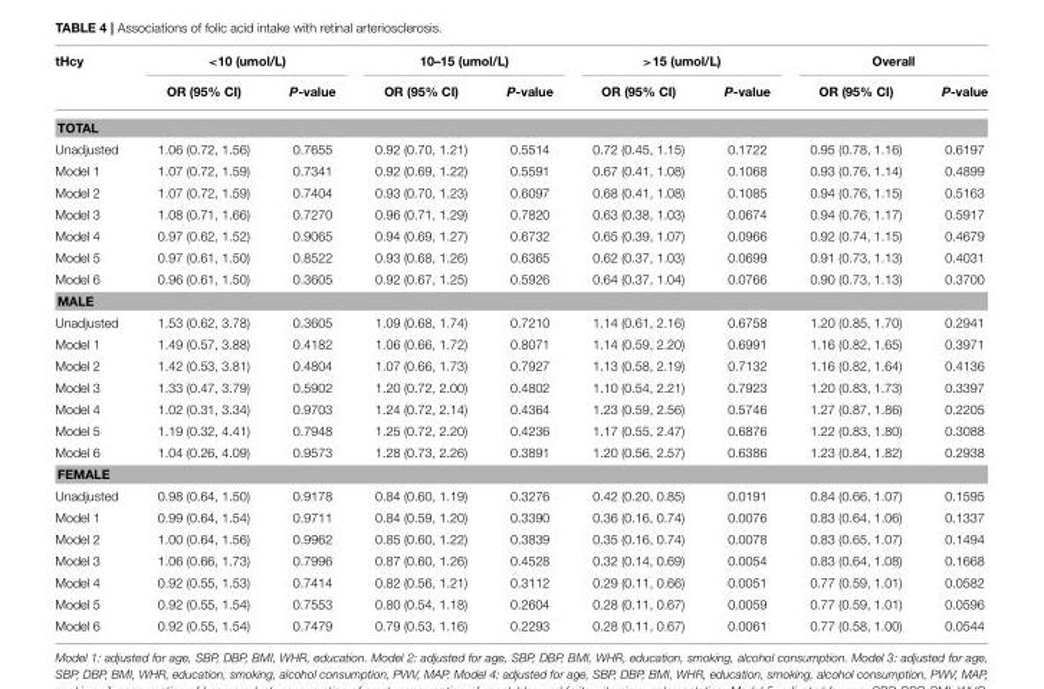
<table><thead><tr><td rowspan="2">tHcy</td><td colspan="2">&lt;10 (umol/L)</td><td colspan="2">10–15 (umol/L)</td><td colspan="2">&gt;15 (umol/L)</td><td colspan="2">Overall</td></tr><tr><td>OR (95% CI)</td><td>P-value</td><td>OR (95% CI)</td><td>P-value</td><td>OR (95% CI)</td><td>P-value</td><td>OR (95% CI)</td><td>P-value</td></tr></thead><tbody><tr><td colspan="9">TOTAL</td></tr><tr><td>Unadjusted</td><td>1.06 (0.72, 1.56)</td><td>0.7655</td><td>0.92 (0.70, 1.21)</td><td>0.5514</td><td>0.72 (0.45, 1.15)</td><td>0.1722</td><td>0.95 (0.78, 1.16)</td><td>0.6197</td></tr><tr><td>Model 1</td><td>1.07 (0.72, 1.59)</td><td>0.7341</td><td>0.92 (0.69, 1.22)</td><td>0.5591</td><td>0.67 (0.41, 1.08)</td><td>0.1068</td><td>0.93 (0.76, 1.14)</td><td>0.4899</td></tr><tr><td>Model 2</td><td>1.07 (0.72, 1.59)</td><td>0.7404</td><td>0.93 (0.70, 1.23)</td><td>0.6097</td><td>0.68 (0.41, 1.08)</td><td>0.1085</td><td>0.94 (0.76, 1.15)</td><td>0.5163</td></tr><tr><td>Model 3</td><td>1.08 (0.71, 1.66)</td><td>0.7270</td><td>0.96 (0.71, 1.29)</td><td>0.7820</td><td>0.63 (0.38, 1.03)</td><td>0.0674</td><td>0.94 (0.76, 1.17)</td><td>0.5917</td></tr><tr><td>Model 4</td><td>0.97 (0.62, 1.52)</td><td>0.9065</td><td>0.94 (0.69, 1.27)</td><td>0.6732</td><td>0.65 (0.39, 1.07)</td><td>0.0966</td><td>0.92 (0.74, 1.15)</td><td>0.4679</td></tr><tr><td>Model 5</td><td>0.97 (0.61, 1.50)</td><td>0.8522</td><td>0.93 (0.68, 1.26)</td><td>0.6365</td><td>0.62 (0.37, 1.03)</td><td>0.0699</td><td>0.91 (0.73, 1.13)</td><td>0.4031</td></tr><tr><td>Model 6</td><td>0.96 (0.61, 1.50)</td><td>0.3605</td><td>0.92 (0.67, 1.25)</td><td>0.5926</td><td>0.64 (0.37, 1.04)</td><td>0.0766</td><td>0.90 (0.73, 1.13)</td><td>0.3700</td></tr><tr><td colspan="9">MALE</td></tr><tr><td>Unadjusted</td><td>1.53 (0.62, 3.78)</td><td>0.3605</td><td>1.09 (0.68, 1.74)</td><td>0.7210</td><td>1.14 (0.61, 2.16)</td><td>0.6758</td><td>1.20 (0.85, 1.70)</td><td>0.2941</td></tr><tr><td>Model 1</td><td>1.49 (0.57, 3.88)</td><td>0.4182</td><td>1.06 (0.66, 1.72)</td><td>0.8071</td><td>1.14 (0.59, 2.20)</td><td>0.6991</td><td>1.16 (0.82, 1.65)</td><td>0.3971</td></tr><tr><td>Model 2</td><td>1.42 (0.53, 3.81)</td><td>0.4804</td><td>1.07 (0.66, 1.73)</td><td>0.7927</td><td>1.13 (0.58, 2.19)</td><td>0.7132</td><td>1.16 (0.82, 1.64)</td><td>0.4136</td></tr><tr><td>Model 3</td><td>1.33 (0.47, 3.79)</td><td>0.5902</td><td>1.20 (0.72, 2.00)</td><td>0.4802</td><td>1.10 (0.54, 2.21)</td><td>0.7923</td><td>1.20 (0.83, 1.73)</td><td>0.3397</td></tr><tr><td>Model 4</td><td>1.02 (0.31, 3.34)</td><td>0.9703</td><td>1.24 (0.72, 2.14)</td><td>0.4364</td><td>1.23 (0.59, 2.56)</td><td>0.5746</td><td>1.27 (0.87, 1.86)</td><td>0.2205</td></tr><tr><td>Model 5</td><td>1.19 (0.32, 4.41)</td><td>0.7948</td><td>1.25 (0.72, 2.20)</td><td>0.4236</td><td>1.17 (0.55, 2.47)</td><td>0.6876</td><td>1.22 (0.83, 1.80)</td><td>0.3088</td></tr><tr><td>Model 6</td><td>1.04 (0.26, 4.09)</td><td>0.9573</td><td>1.28 (0.73, 2.26)</td><td>0.3891</td><td>1.20 (0.56, 2.57)</td><td>0.6386</td><td>1.23 (0.84, 1.82)</td><td>0.2938</td></tr><tr><td colspan="9">FEMALE</td></tr><tr><td>Unadjusted</td><td>0.98 (0.64, 1.50)</td><td>0.9178</td><td>0.84 (0.60, 1.19)</td><td>0.3276</td><td>0.42 (0.20, 0.85)</td><td>0.0191</td><td>0.84 (0.66, 1.07)</td><td>0.1595</td></tr><tr><td>Model 1</td><td>0.99 (0.64, 1.54)</td><td>0.9711</td><td>0.84 (0.59, 1.20)</td><td>0.3390</td><td>0.36 (0.16, 0.74)</td><td>0.0076</td><td>0.83 (0.64, 1.06)</td><td>0.1337</td></tr><tr><td>Model 2</td><td>1.00 (0.64, 1.56)</td><td>0.9962</td><td>0.85 (0.60, 1.22)</td><td>0.3839</td><td>0.35 (0.16, 0.74)</td><td>0.0078</td><td>0.83 (0.65, 1.07)</td><td>0.1494</td></tr><tr><td>Model 3</td><td>1.06 (0.66, 1.73)</td><td>0.7996</td><td>0.87 (0.60, 1.26)</td><td>0.4528</td><td>0.32 (0.14, 0.69)</td><td>0.0054</td><td>0.83 (0.64, 1.08)</td><td>0.1668</td></tr><tr><td>Model 4</td><td>0.92 (0.55, 1.53)</td><td>0.7414</td><td>0.82 (0.56, 1.21)</td><td>0.3112</td><td>0.29 (0.11, 0.66)</td><td>0.0051</td><td>0.77 (0.59, 1.01)</td><td>0.0582</td></tr><tr><td>Model 5</td><td>0.92 (0.55, 1.54)</td><td>0.7553</td><td>0.80 (0.54, 1.18)</td><td>0.2604</td><td>0.28 (0.11, 0.67)</td><td>0.0059</td><td>0.77 (0.59, 1.01)</td><td>0.0596</td></tr><tr><td>Model 6</td><td>0.92 (0.55, 1.54)</td><td>0.7479</td><td>0.79 (0.53, 1.16)</td><td>0.2293</td><td>0.28 (0.11, 0.67)</td><td>0.0061</td><td>0.77 (0.58, 1.00)</td><td>0.0544</td></tr></tbody></table>